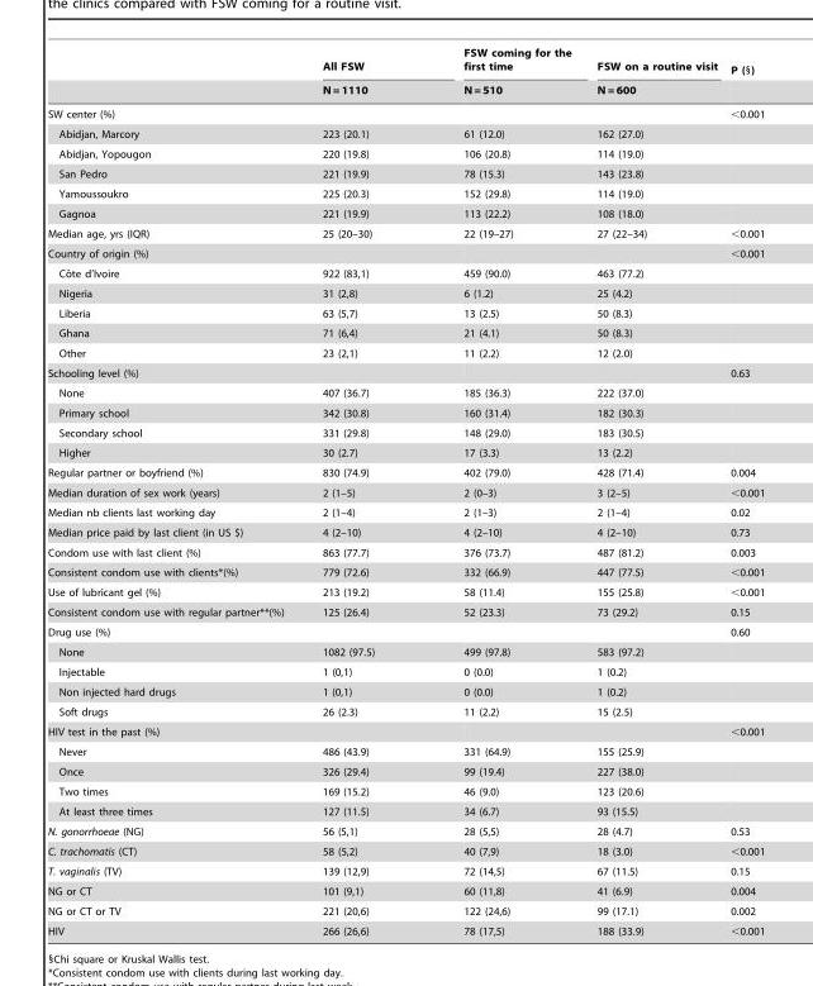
<table><thead><tr><td rowspan="2"></td><td rowspan="2">All FSW N = 1110</td><td rowspan="2">FSW coming for the first time N = 510</td><td rowspan="2">FSW on a routine visit N = 600</td><td rowspan="2">P (§)</td></tr><tr></tr></thead><tbody><tr><td>SW center (%)</td><td></td><td></td><td></td><td>&lt;0.001</td></tr><tr><td>Abidjan, Marcory</td><td>223 (20.1)</td><td>61 (12.0)</td><td>162 (27.0)</td><td></td></tr><tr><td>Abidjan, Yopougon</td><td>220 (19.8)</td><td>106 (20.8)</td><td>114 (19.0)</td><td></td></tr><tr><td>San Pedro</td><td>221 (19.9)</td><td>78 (15.3)</td><td>143 (23.8)</td><td></td></tr><tr><td>Yamoussoukro</td><td>225 (20.3)</td><td>152 (29.8)</td><td>114 (19.0)</td><td></td></tr><tr><td>Gagnoa</td><td>221 (19.9)</td><td>113 (22.2)</td><td>108 (18.0)</td><td></td></tr><tr><td>Median age, yrs (IQR)</td><td>25 (20–30)</td><td>22 (19–27)</td><td>27 (22–34)</td><td>&lt;0.001</td></tr><tr><td>Country of origin (%)</td><td></td><td></td><td></td><td>&lt;0.001</td></tr><tr><td>Coˆte d’Ivoire</td><td>922 (83,1)</td><td>459 (90.0)</td><td>463 (77.2)</td><td></td></tr><tr><td>Nigeria</td><td>31 (2,8)</td><td>6 (1.2)</td><td>25 (4.2)</td><td></td></tr><tr><td>Liberia</td><td>63 (5,7)</td><td>13 (2.5)</td><td>50 (8.3)</td><td></td></tr><tr><td>Ghana</td><td>71 (6,4)</td><td>21 (4.1)</td><td>50 (8.3)</td><td></td></tr><tr><td>Other</td><td>23 (2,1)</td><td>11 (2.2)</td><td>12 (2.0)</td><td></td></tr><tr><td>Schooling level (%)</td><td></td><td></td><td></td><td>0.63</td></tr><tr><td>None</td><td>407 (36.7)</td><td>185 (36.3)</td><td>222 (37.0)</td><td></td></tr><tr><td>Primary school</td><td>342 (30.8)</td><td>160 (31.4)</td><td>182 (30.3)</td><td></td></tr><tr><td>Secondary school</td><td>331 (29.8)</td><td>148 (29.0)</td><td>183 (30.5)</td><td></td></tr><tr><td>Higher</td><td>30 (2.7)</td><td>17 (3.3)</td><td>13 (2.2)</td><td></td></tr><tr><td>Regular partner or boyfriend (%)</td><td>830 (74.9)</td><td>402 (79.0)</td><td>428 (71.4)</td><td>0.004</td></tr><tr><td>Median duration of sex work (years)</td><td>2 (1–5)</td><td>2 (0–3)</td><td>3 (2–5)</td><td>&lt;0.001</td></tr><tr><td>Median nb clients last working day</td><td>2 (1–4)</td><td>2 (1–3)</td><td>2 (1–4)</td><td>0.02</td></tr><tr><td>Median price paid by last client (in US $)</td><td>4 (2–10)</td><td>4 (2–10)</td><td>4 (2–10)</td><td>0.73</td></tr><tr><td>Condom use with last client (%)</td><td>863 (77.7)</td><td>376 (73.7)</td><td>487 (81.2)</td><td>0.003</td></tr><tr><td>Consistent condom use with clients*(%)</td><td>779 (72.6)</td><td>332 (66.9)</td><td>447 (77.5)</td><td>&lt;0.001</td></tr><tr><td>Use of lubricant gel (%)</td><td>213 (19.2)</td><td>58 (11.4)</td><td>155 (25.8)</td><td>&lt;0.001</td></tr><tr><td>Consistent condom use with regular partner**(%)</td><td>125 (26.4)</td><td>52 (23.3)</td><td>73 (29.2)</td><td>0.15</td></tr><tr><td>Drug use (%)</td><td></td><td></td><td></td><td>0.60</td></tr><tr><td>None</td><td>1082 (97.5)</td><td>499 (97.8)</td><td>583 (97.2)</td><td></td></tr><tr><td>Injectable</td><td>1 (0,1)</td><td>0 (0.0)</td><td>1 (0.2)</td><td></td></tr><tr><td>Non injected hard drugs</td><td>1 (0,1)</td><td>0 (0.0)</td><td>1 (0.2)</td><td></td></tr><tr><td>Soft drugs</td><td>26 (2.3)</td><td>11 (2.2)</td><td>15 (2.5)</td><td></td></tr><tr><td>HIV test in the past (%)</td><td></td><td></td><td></td><td>&lt;0.001</td></tr><tr><td>Never</td><td>486 (43.9)</td><td>331 (64.9)</td><td>155 (25.9)</td><td></td></tr><tr><td>Once</td><td>326 (29.4)</td><td>99 (19.4)</td><td>227 (38.0)</td><td></td></tr><tr><td>Two times</td><td>169 (15.2)</td><td>46 (9.0)</td><td>123 (20.6)</td><td></td></tr><tr><td>At least three times</td><td>127 (11.5)</td><td>34 (6.7)</td><td>93 (15.5)</td><td></td></tr><tr><td>N. gonorrhoeae (NG)</td><td>56 (5,1)</td><td>28 (5,5)</td><td>28 (4.7)</td><td>0.53</td></tr><tr><td>C. trachomatis (CT)</td><td>58 (5,2)</td><td>40 (7,9)</td><td>18 (3.0)</td><td>&lt;0.001</td></tr><tr><td>T. vaginalis (TV)</td><td>139 (12,9)</td><td>72 (14,5)</td><td>67 (11.5)</td><td>0.15</td></tr><tr><td>NG or CT</td><td>101 (9,1)</td><td>60 (11,8)</td><td>41 (6.9)</td><td>0.004</td></tr><tr><td>NG or CT or TV</td><td>221 (20,6)</td><td>122 (24,6)</td><td>99 (17.1)</td><td>0.002</td></tr><tr><td>HIV</td><td>266 (26,6)</td><td>78 (17,5)</td><td>188 (33.9)</td><td>&lt;0.001</td></tr></tbody></table>